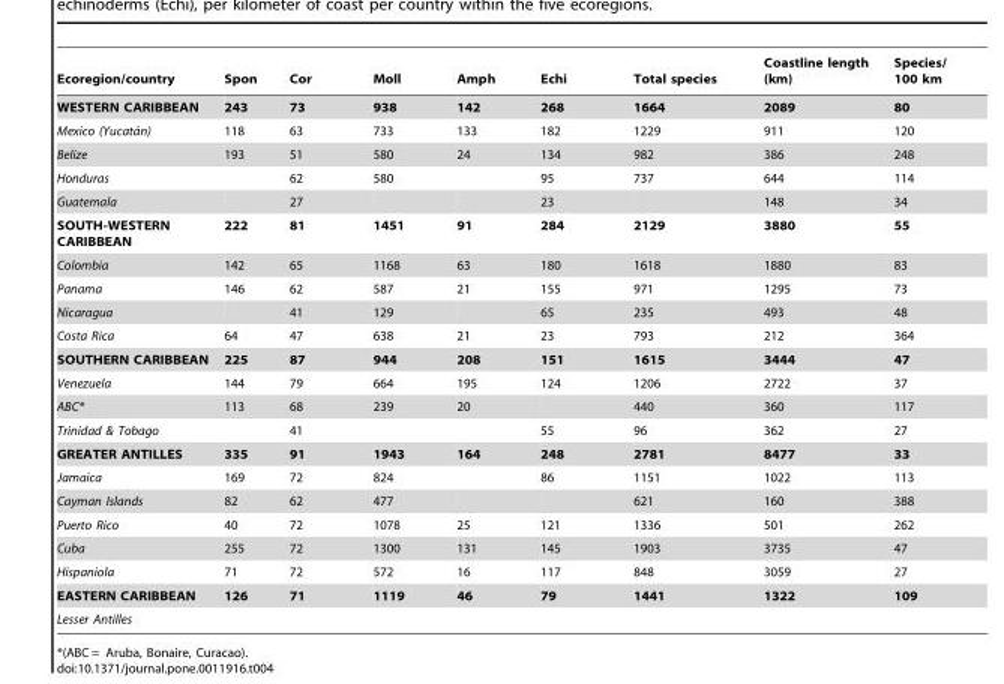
<table><thead><tr><td>Ecoregion/country</td><td>Spon</td><td>Cor</td><td>Moll</td><td>Amph</td><td>Echi</td><td>Total species</td><td>Coastline length (km)</td><td>Species/ 100 km</td></tr></thead><tbody><tr><td>WESTERN CARIBBEAN</td><td>243</td><td>73</td><td>938</td><td>142</td><td>268</td><td>1664</td><td>2089</td><td>80</td></tr><tr><td>Mexico (Yucata´n)</td><td>118</td><td>63</td><td>733</td><td>133</td><td>182</td><td>1229</td><td>911</td><td>120</td></tr><tr><td>Belize</td><td>193</td><td>51</td><td>580</td><td>24</td><td>134</td><td>982</td><td>386</td><td>248</td></tr><tr><td>Honduras</td><td></td><td>62</td><td>580</td><td></td><td>95</td><td>737</td><td>644</td><td>114</td></tr><tr><td>Guatemala</td><td></td><td>27</td><td></td><td></td><td>23</td><td></td><td>148</td><td>34</td></tr><tr><td>SOUTH-WESTERN CARIBBEAN</td><td>222</td><td>81</td><td>1451</td><td>91</td><td>284</td><td>2129</td><td>3880</td><td>55</td></tr><tr><td>Colombia</td><td>142</td><td>65</td><td>1168</td><td>63</td><td>180</td><td>1618</td><td>1880</td><td>83</td></tr><tr><td>Panama</td><td>146</td><td>62</td><td>587</td><td>21</td><td>155</td><td>971</td><td>1295</td><td>73</td></tr><tr><td>Nicaragua</td><td></td><td>41</td><td>129</td><td></td><td>65</td><td>235</td><td>493</td><td>48</td></tr><tr><td>Costa Rica</td><td>64</td><td>47</td><td>638</td><td>21</td><td>23</td><td>793</td><td>212</td><td>364</td></tr><tr><td>SOUTHERN CARIBBEAN</td><td>225</td><td>87</td><td>944</td><td>208</td><td>151</td><td>1615</td><td>3444</td><td>47</td></tr><tr><td>Venezuela</td><td>144</td><td>79</td><td>664</td><td>195</td><td>124</td><td>1206</td><td>2722</td><td>37</td></tr><tr><td>ABC*</td><td>113</td><td>68</td><td>239</td><td>20</td><td></td><td>440</td><td>360</td><td>117</td></tr><tr><td>Trinidad &amp; Tobago</td><td></td><td>41</td><td></td><td></td><td>55</td><td>96</td><td>362</td><td>27</td></tr><tr><td>GREATER ANTILLES</td><td>335</td><td>91</td><td>1943</td><td>164</td><td>248</td><td>2781</td><td>8477</td><td>33</td></tr><tr><td>Jamaica</td><td>169</td><td>72</td><td>824</td><td></td><td>86</td><td>1151</td><td>1022</td><td>113</td></tr><tr><td>Cayman Islands</td><td>82</td><td>62</td><td>477</td><td></td><td></td><td>621</td><td>160</td><td>388</td></tr><tr><td>Puerto Rico</td><td>40</td><td>72</td><td>1078</td><td>25</td><td>121</td><td>1336</td><td>501</td><td>262</td></tr><tr><td>Cuba</td><td>255</td><td>72</td><td>1300</td><td>131</td><td>145</td><td>1903</td><td>3735</td><td>47</td></tr><tr><td>Hispaniola</td><td>71</td><td>72</td><td>572</td><td>16</td><td>117</td><td>848</td><td>3059</td><td>27</td></tr><tr><td>EASTERN CARIBBEAN</td><td>126</td><td>71</td><td>1119</td><td>46</td><td>79</td><td>1441</td><td>1322</td><td>109</td></tr><tr><td>Lesser Antilles</td><td></td><td></td><td></td><td></td><td></td><td></td><td></td><td></td></tr></tbody></table>